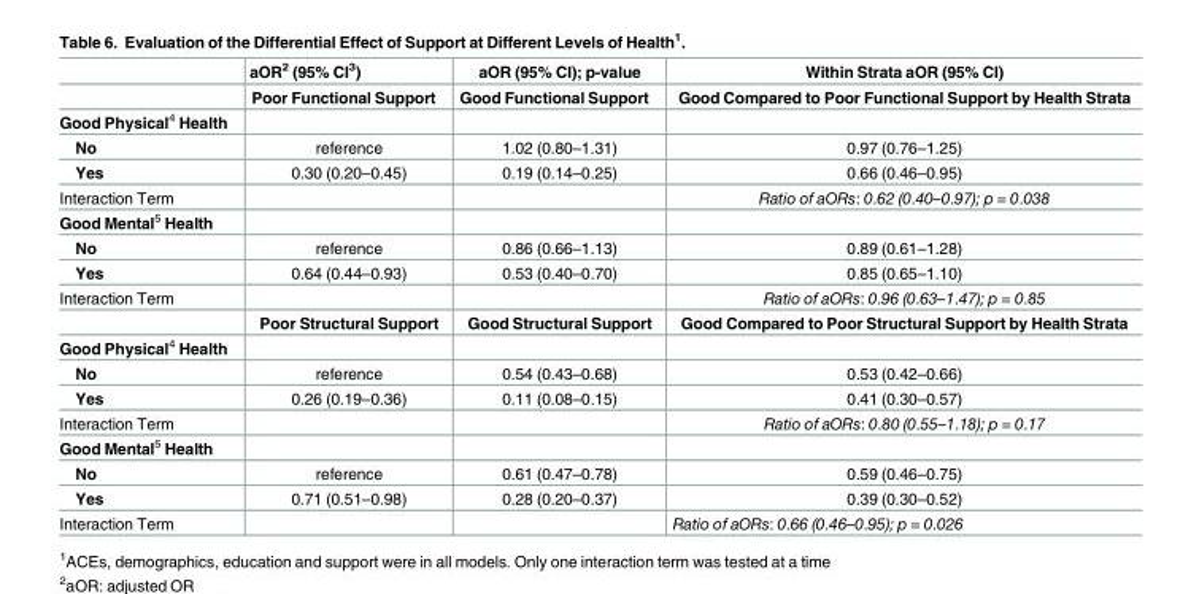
<table><thead><tr><td></td><td>aOR<sup>2</sup> (95% CI<sup>3</sup>)</td><td>aOR (95% CI); p-value</td><td>Within Strata aOR (95% CI)</td></tr></thead><tbody><tr><td></td><td>Poor Functional Support</td><td>Good Functional Support</td><td>Good Compared to Poor Functional Support by Health Strata</td></tr><tr><td colspan="4">Good Physical<sup>4</sup> Health</td></tr><tr><td>No</td><td>reference</td><td>1.02 (0.80–1.31)</td><td>0.97 (0.76–1.25)</td></tr><tr><td>Yes</td><td>0.30 (0.20–0.45)</td><td>0.19 (0.14–0.25)</td><td>0.66 (0.46–0.95)</td></tr><tr><td>Interaction Term</td><td></td><td></td><td>Ratio of aORs: 0.62 (0.40–0.97); p = 0.038</td></tr><tr><td colspan="4">Good Mental<sup>5</sup> Health</td></tr><tr><td>No</td><td>reference</td><td>0.86 (0.66–1.13)</td><td>0.89 (0.61–1.28)</td></tr><tr><td>Yes</td><td>0.64 (0.44–0.93)</td><td>0.53 (0.40–0.70)</td><td>0.85 (0.65–1.10)</td></tr><tr><td rowspan="2">Interaction Term</td><td></td><td></td><td>Ratio of aORs: 0.96 (0.63–1.47); p = 0.85</td></tr><tr><td>Poor Structural Support</td><td>Good Structural Support</td><td>Good Compared to Poor Structural Support by Health Strata</td></tr><tr><td colspan="4">Good Physical<sup>4</sup> Health</td></tr><tr><td>No</td><td>reference</td><td>0.54 (0.43–0.68)</td><td>0.53 (0.42–0.66)</td></tr><tr><td>Yes</td><td>0.26 (0.19–0.36)</td><td>0.11 (0.08–0.15)</td><td>0.41 (0.30–0.57)</td></tr><tr><td>Interaction Term</td><td></td><td></td><td>Ratio of aORs: 0.80 (0.55–1.18); p = 0.17</td></tr><tr><td colspan="4">Good Mental<sup>5</sup> Health</td></tr><tr><td>No</td><td>reference</td><td>0.61 (0.47–0.78)</td><td>0.59 (0.46–0.75)</td></tr><tr><td>Yes</td><td>0.71 (0.51–0.98)</td><td>0.28 (0.20–0.37)</td><td>0.39 (0.30–0.52)</td></tr><tr><td>Interaction Term</td><td></td><td></td><td>Ratio of aORs: 0.66 (0.46–0.95); p = 0.026</td></tr></tbody></table>